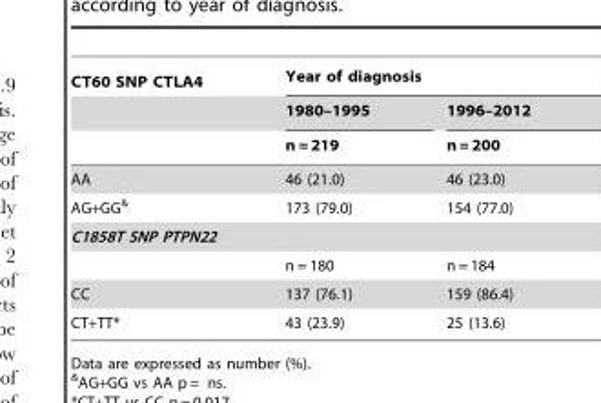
<table><thead><tr><td rowspan="3">CT60 SNP CTLA4</td><td colspan="2">Year of diagnosis</td></tr><tr><td rowspan="2">1980–1995 n = 219</td><td rowspan="2">1996–2012 n = 200</td></tr><tr></tr></thead><tbody><tr><td>AA</td><td>46 (21.0)</td><td>46 (23.0)</td></tr><tr><td>AG+GG&amp;</td><td>173 (79.0)</td><td>154 (77.0)</td></tr><tr><td colspan="3">C1858T SNP PTPN22</td></tr><tr><td></td><td>n = 180</td><td>n = 184</td></tr><tr><td>CC</td><td>137 (76.1)</td><td>159 (86.4)</td></tr><tr><td>CT+TT*</td><td>43 (23.9)</td><td>25 (13.6)</td></tr></tbody></table>